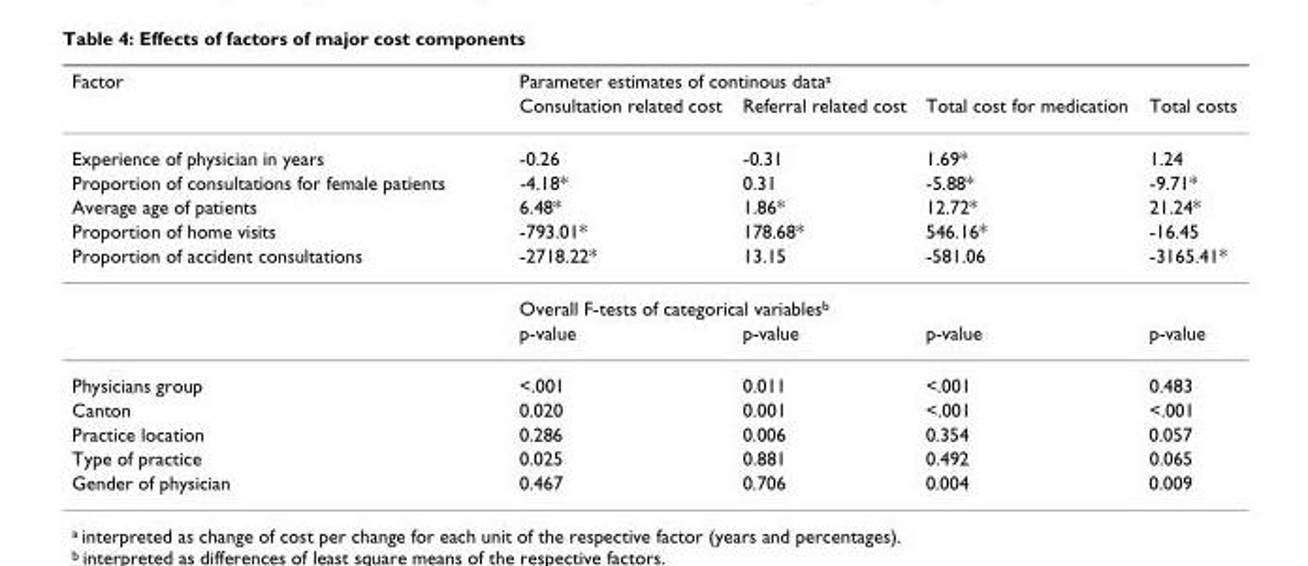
<table><thead><tr><td rowspan="2">Factor</td><td colspan="4">Parameter estimates of continous dataa</td></tr><tr><td>Consultation related cost</td><td>Referral related cost</td><td>Total cost for medication</td><td>Total costs</td></tr></thead><tbody><tr><td>Experience of physician in years</td><td>-0.26</td><td>-0.31</td><td>1.69*</td><td>1.24</td></tr><tr><td>Proportion of consultations for female patients</td><td>-4.18*</td><td>0.31</td><td>-5.88*</td><td>-9.71*</td></tr><tr><td>Average age of patients</td><td>6.48*</td><td>1.86*</td><td>12.72*</td><td>21.24*</td></tr><tr><td>Proportion of home visits</td><td>-793.01*</td><td>178.68*</td><td>546.16*</td><td>-16.45</td></tr><tr><td rowspan="3">Proportion of accident consultations</td><td>-2718.22*</td><td>13.15</td><td>-581.06</td><td>-3165.41*</td></tr><tr><td colspan="4">Overall F-tests of categorical variablesb</td></tr><tr><td>p-value</td><td>p-value</td><td>p-value</td><td>p-value</td></tr><tr><td>Physicians group</td><td>&lt;.001</td><td>0.011</td><td>&lt;.001</td><td>0.483</td></tr><tr><td>Canton</td><td>0.020</td><td>0.001</td><td>&lt;.001</td><td>&lt;.001</td></tr><tr><td>Practice location</td><td>0.286</td><td>0.006</td><td>0.354</td><td>0.057</td></tr><tr><td>Type of practice</td><td>0.025</td><td>0.881</td><td>0.492</td><td>0.065</td></tr><tr><td>Gender of physician</td><td>0.467</td><td>0.706</td><td>0.004</td><td>0.009</td></tr></tbody></table>